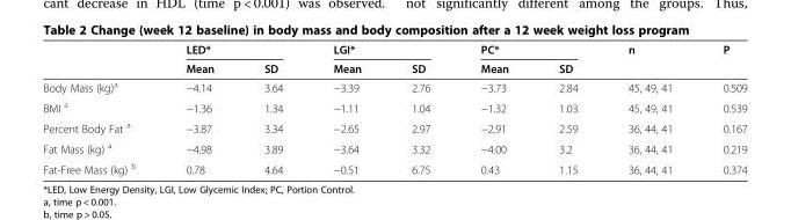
<table><thead><tr><td rowspan="2"></td><td rowspan="2">LED* Mean</td><td rowspan="2">SD</td><td rowspan="2">LGI* Mean</td><td rowspan="2">SD</td><td rowspan="2">PC* Mean</td><td rowspan="2">SD</td><td rowspan="2">n</td><td rowspan="2">P</td></tr><tr></tr></thead><tbody><tr><td>Body Mass (kg)<sup>a</sup></td><td>−4.14</td><td>3.64</td><td>−3.39</td><td>2.76</td><td>−3.73</td><td>2.84</td><td>45, 49, 41</td><td>0.509</td></tr><tr><td>BMI <sup>a</sup></td><td>−1.36</td><td>1.34</td><td>−1.11</td><td>1.04</td><td>−1.32</td><td>1.03</td><td>45, 49, 41</td><td>0.539</td></tr><tr><td>Percent Body Fat <sup>a</sup></td><td>−3.87</td><td>3.34</td><td>−2.65</td><td>2.97</td><td>−2.91</td><td>2.59</td><td>36, 44, 41</td><td>0.167</td></tr><tr><td>Fat Mass (kg) <sup>a</sup></td><td>−4.98</td><td>3.89</td><td>−3.64</td><td>3.32</td><td>−4.00</td><td>3.2</td><td>36, 44, 41</td><td>0.219</td></tr><tr><td>Fat-Free Mass (kg) <sup>b</sup></td><td>0.78</td><td>4.64</td><td>−0.51</td><td>6.75</td><td>0.43</td><td>1.15</td><td>36, 44, 41</td><td>0.374</td></tr></tbody></table>